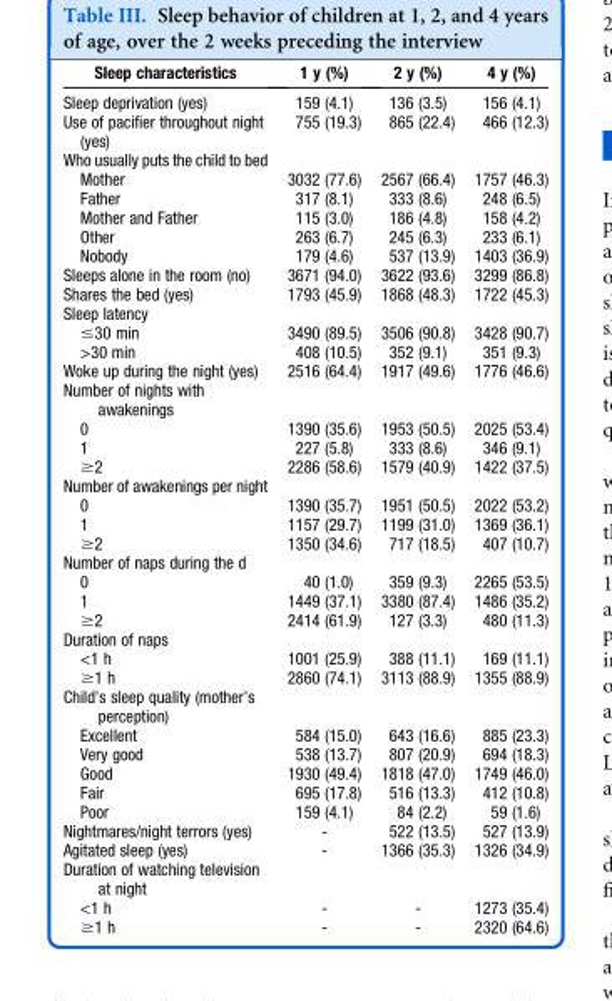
<table><thead><tr><td>Sleep characteristics</td><td>1 y (%)</td><td>2 y (%)</td><td>4 y (%)</td></tr></thead><tbody><tr><td>Sleep deprivation (yes)</td><td>159 (4.1)</td><td>136 (3.5)</td><td>156 (4.1)</td></tr><tr><td>Use of pacifier throughout night (yes)</td><td>755 (19.3)</td><td>865 (22.4)</td><td>466 (12.3)</td></tr><tr><td colspan="4">Who usually puts the child to bed</td></tr><tr><td>Mother</td><td>3032 (77.6)</td><td>2567 (66.4)</td><td>1757 (46.3)</td></tr><tr><td>Father</td><td>317 (8.1)</td><td>333 (8.6)</td><td>248 (6.5)</td></tr><tr><td>Mother and Father</td><td>115 (3.0)</td><td>186 (4.8)</td><td>158 (4.2)</td></tr><tr><td>Other</td><td>263 (6.7)</td><td>245 (6.3)</td><td>233 (6.1)</td></tr><tr><td>Nobody</td><td>179 (4.6)</td><td>537 (13.9)</td><td>1403 (36.9)</td></tr><tr><td>Sleeps alone in the room (no)</td><td>3671 (94.0)</td><td>3622 (93.6)</td><td>3299 (86.8)</td></tr><tr><td>Shares the bed (yes)</td><td>1793 (45.9)</td><td>1868 (48.3)</td><td>1722 (45.3)</td></tr><tr><td colspan="4">Sleep latency</td></tr><tr><td>≤30 min</td><td>3490 (89.5)</td><td>3506 (90.8)</td><td>3428 (90.7)</td></tr><tr><td>&gt;30 min</td><td>408 (10.5)</td><td>352 (9.1)</td><td>351 (9.3)</td></tr><tr><td>Woke up during the night (yes)</td><td>2516 (64.4)</td><td>1917 (49.6)</td><td>1776 (46.6)</td></tr><tr><td colspan="4">Number of nights with awakenings</td></tr><tr><td>0</td><td>1390 (35.6)</td><td>1953 (50.5)</td><td>2025 (53.4)</td></tr><tr><td>1</td><td>227 (5.8)</td><td>333 (8.6)</td><td>346 (9.1)</td></tr><tr><td>≥2</td><td>2286 (58.6)</td><td>1579 (40.9)</td><td>1422 (37.5)</td></tr><tr><td colspan="4">Number of awakenings per night</td></tr><tr><td>0</td><td>1390 (35.7)</td><td>1951 (50.5)</td><td>2022 (53.2)</td></tr><tr><td>1</td><td>1157 (29.7)</td><td>1199 (31.0)</td><td>1369 (36.1)</td></tr><tr><td>≥2</td><td>1350 (34.6)</td><td>717 (18.5)</td><td>407 (10.7)</td></tr><tr><td colspan="4">Number of naps during the d</td></tr><tr><td>0</td><td>40 (1.0)</td><td>359 (9.3)</td><td>2265 (53.5)</td></tr><tr><td>1</td><td>1449 (37.1)</td><td>3380 (87.4)</td><td>1486 (35.2)</td></tr><tr><td>≥2</td><td>2414 (61.9)</td><td>127 (3.3)</td><td>480 (11.3)</td></tr><tr><td colspan="4">Duration of naps</td></tr><tr><td>&lt;1 h</td><td>1001 (25.9)</td><td>388 (11.1)</td><td>169 (11.1)</td></tr><tr><td>≥1 h</td><td>2860 (74.1)</td><td>3113 (88.9)</td><td>1355 (88.9)</td></tr><tr><td colspan="4">Child’s sleep quality (mother’s perception)</td></tr><tr><td>Excellent</td><td>584 (15.0)</td><td>643 (16.6)</td><td>885 (23.3)</td></tr><tr><td>Very good</td><td>538 (13.7)</td><td>807 (20.9)</td><td>694 (18.3)</td></tr><tr><td>Good</td><td>1930 (49.4)</td><td>1818 (47.0)</td><td>1749 (46.0)</td></tr><tr><td>Fair</td><td>695 (17.8)</td><td>516 (13.3)</td><td>412 (10.8)</td></tr><tr><td>Poor</td><td>159 (4.1)</td><td>84 (2.2)</td><td>59 (1.6)</td></tr><tr><td>Nightmares/night terrors (yes)</td><td>-</td><td>522 (13.5)</td><td>527 (13.9)</td></tr><tr><td>Agitated sleep (yes)</td><td>-</td><td>1366 (35.3)</td><td>1326 (34.9)</td></tr><tr><td colspan="4">Duration of watching television at night</td></tr><tr><td>&lt;1 h</td><td>-</td><td>-</td><td>1273 (35.4)</td></tr><tr><td>≥1 h</td><td>-</td><td>-</td><td>2320 (64.6)</td></tr></tbody></table>